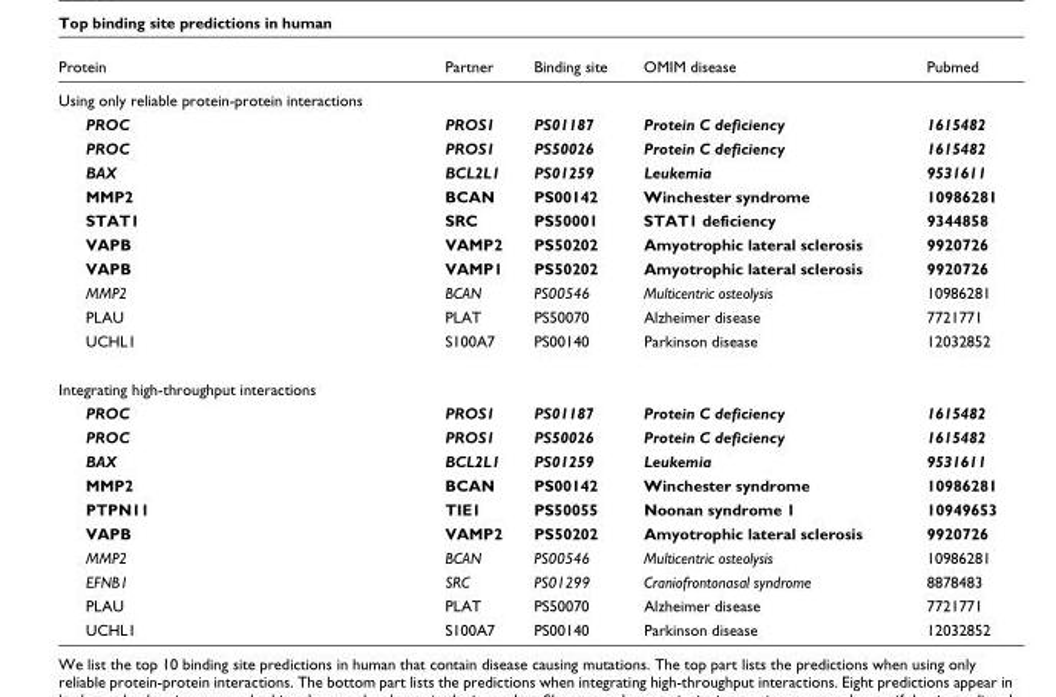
<table><thead><tr><td>Protein</td><td>Partner</td><td>Binding site</td><td>OMIM disease</td><td>Pubmed</td></tr></thead><tbody><tr><td colspan="5">Using only reliable protein-protein interactions</td></tr><tr><td>PROC</td><td>PROS1</td><td>PS01187</td><td>Protein C deficiency</td><td>1615482</td></tr><tr><td>PROC</td><td>PROS1</td><td>PS50026</td><td>Protein C deficiency</td><td>1615482</td></tr><tr><td>BAX</td><td>BCL2L1</td><td>PS01259</td><td>Leukemia</td><td>9531611</td></tr><tr><td>MMP2</td><td>BCAN</td><td>PS00142</td><td>Winchester syndrome</td><td>10986281</td></tr><tr><td>STAT1</td><td>SRC</td><td>PS50001</td><td>STAT1 deficiency</td><td>9344858</td></tr><tr><td>VAPB</td><td>VAMP2</td><td>PS50202</td><td>Amyotrophic lateral sclerosis</td><td>9920726</td></tr><tr><td>VAPB</td><td>VAMP1</td><td>PS50202</td><td>Amyotrophic lateral sclerosis</td><td>9920726</td></tr><tr><td>MMP2</td><td>BCAN</td><td>PS00546</td><td>Multicentric osteolysis</td><td>10986281</td></tr><tr><td>PLAU</td><td>PLAT</td><td>PS50070</td><td>Alzheimer disease</td><td>7721771</td></tr><tr><td>UCHL1</td><td>S100A7</td><td>PS00140</td><td>Parkinson disease</td><td>12032852</td></tr><tr><td colspan="5">Integrating high-throughput interactions</td></tr><tr><td>PROC</td><td>PROS1</td><td>PS01187</td><td>Protein C deficiency</td><td>1615482</td></tr><tr><td>PROC</td><td>PROS1</td><td>PS50026</td><td>Protein C deficiency</td><td>1615482</td></tr><tr><td>BAX</td><td>BCL2L1</td><td>PS01259</td><td>Leukemia</td><td>9531611</td></tr><tr><td>MMP2</td><td>BCAN</td><td>PS00142</td><td>Winchester syndrome</td><td>10986281</td></tr><tr><td>PTPN11</td><td>TIE1</td><td>PS50055</td><td>Noonan syndrome 1</td><td>10949653</td></tr><tr><td>VAPB</td><td>VAMP2</td><td>PS50202</td><td>Amyotrophic lateral sclerosis</td><td>9920726</td></tr><tr><td>MMP2</td><td>BCAN</td><td>PS00546</td><td>Multicentric osteolysis</td><td>10986281</td></tr><tr><td>EFNB1</td><td>SRC</td><td>PS01299</td><td>Craniofrontonasal syndrome</td><td>8878483</td></tr><tr><td>PLAU</td><td>PLAT</td><td>PS50070</td><td>Alzheimer disease</td><td>7721771</td></tr><tr><td>UCHL1</td><td>S100A7</td><td>PS00140</td><td>Parkinson disease</td><td>12032852</td></tr></tbody></table>